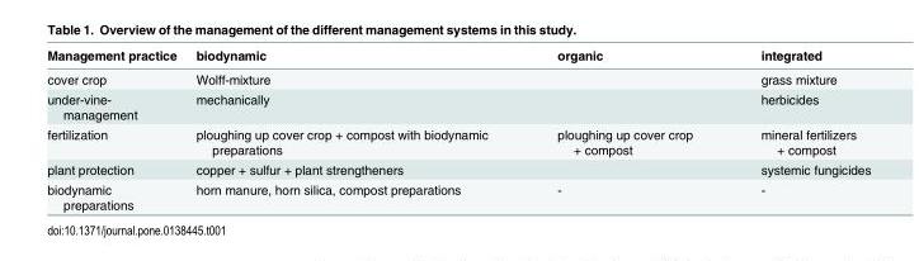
<table><thead><tr><td>Management practice</td><td>biodynamic</td><td>organic</td><td>integrated</td></tr></thead><tbody><tr><td>cover crop</td><td colspan="2">Wolff-mixture</td><td>grass mixture</td></tr><tr><td>under-vine- management</td><td colspan="2">mechanically</td><td>herbicides</td></tr><tr><td>fertilization</td><td>ploughing up cover crop + compost with biodynamic preparations</td><td>ploughing up cover crop + compost</td><td>mineral fertilizers + compost</td></tr><tr><td>plant protection</td><td colspan="2">copper + sulfur + plant strengtheners</td><td>systemic fungicides</td></tr><tr><td>biodynamic preparations</td><td>horn manure, horn silica, compost preparations</td><td>-</td><td>-</td></tr></tbody></table>